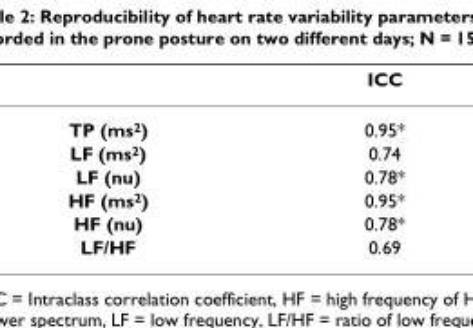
<table><thead><tr><td></td><td>ICC</td></tr></thead><tbody><tr><td>TP (ms<sup>2</sup>)</td><td>0.95*</td></tr><tr><td>LF (ms<sup>2</sup>)</td><td>0.74</td></tr><tr><td>LF (nu)</td><td>0.78*</td></tr><tr><td>HF (ms<sup>2</sup>)</td><td>0.95*</td></tr><tr><td>HF (nu)</td><td>0.78*</td></tr><tr><td>LF/HF</td><td>0.69</td></tr></tbody></table>